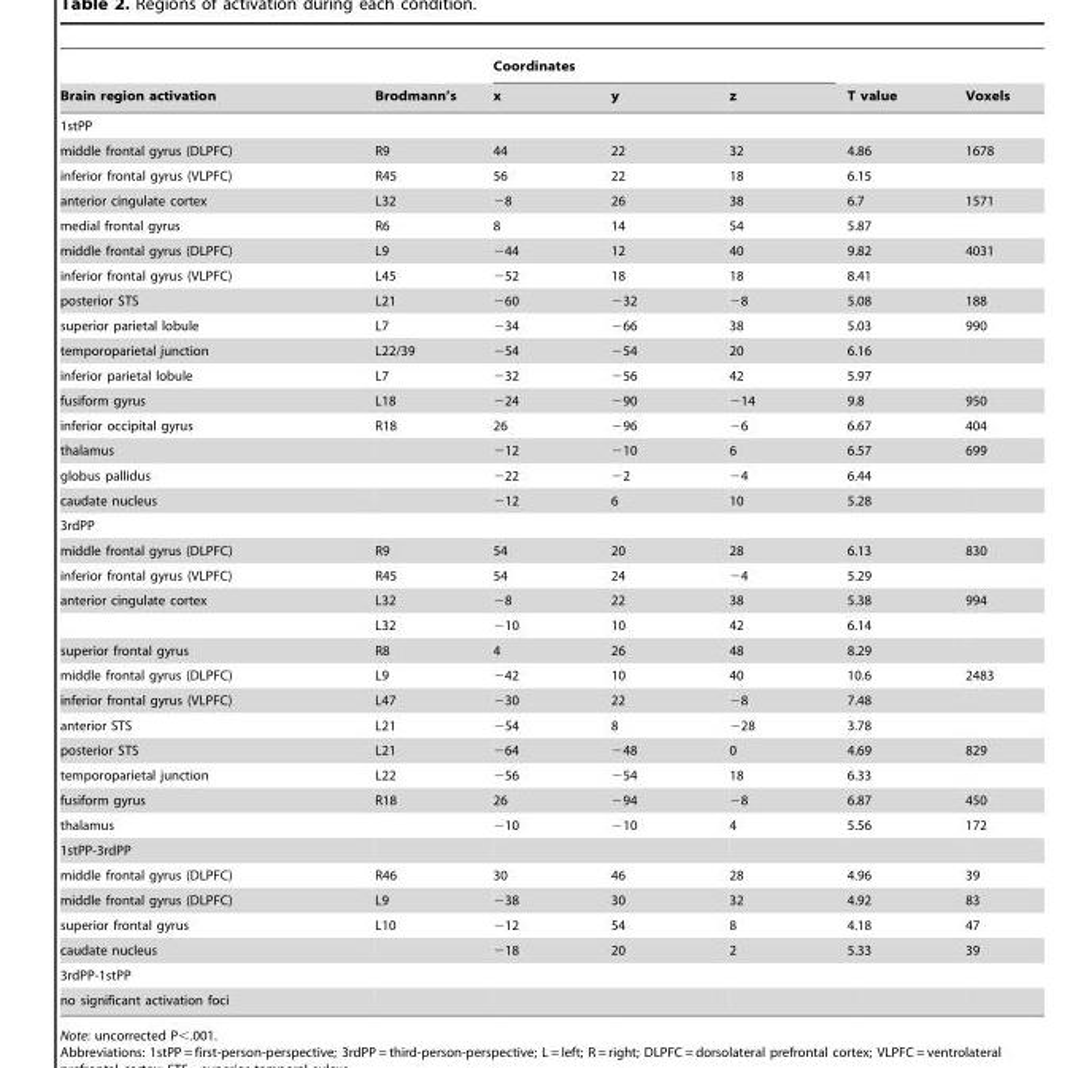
<table><thead><tr><td rowspan="2">Brain region activation</td><td rowspan="2">Brodmann’s</td><td colspan="3">Coordinates</td><td rowspan="2">T value</td><td rowspan="2">Voxels</td></tr><tr><td>x</td><td>y</td><td>z</td></tr></thead><tbody><tr><td colspan="7">1stPP</td></tr><tr><td>middle frontal gyrus (DLPFC)</td><td>R9</td><td>44</td><td>22</td><td>32</td><td>4.86</td><td>1678</td></tr><tr><td>inferior frontal gyrus (VLPFC)</td><td>R45</td><td>56</td><td>22</td><td>18</td><td>6.15</td><td></td></tr><tr><td>anterior cingulate cortex</td><td>L32</td><td>−8</td><td>26</td><td>38</td><td>6.7</td><td>1571</td></tr><tr><td>medial frontal gyrus</td><td>R6</td><td>8</td><td>14</td><td>54</td><td>5.87</td><td></td></tr><tr><td>middle frontal gyrus (DLPFC)</td><td>L9</td><td>−44</td><td>12</td><td>40</td><td>9.82</td><td>4031</td></tr><tr><td>inferior frontal gyrus (VLPFC)</td><td>L45</td><td>−52</td><td>18</td><td>18</td><td>8.41</td><td></td></tr><tr><td>posterior STS</td><td>L21</td><td>−60</td><td>−32</td><td>−8</td><td>5.08</td><td>188</td></tr><tr><td>superior parietal lobule</td><td>L7</td><td>−34</td><td>−66</td><td>38</td><td>5.03</td><td>990</td></tr><tr><td>temporoparietal junction</td><td>L22/39</td><td>−54</td><td>−54</td><td>20</td><td>6.16</td><td></td></tr><tr><td>inferior parietal lobule</td><td>L7</td><td>−32</td><td>−56</td><td>42</td><td>5.97</td><td></td></tr><tr><td>fusiform gyrus</td><td>L18</td><td>−24</td><td>−90</td><td>−14</td><td>9.8</td><td>950</td></tr><tr><td>inferior occipital gyrus</td><td>R18</td><td>26</td><td>−96</td><td>−6</td><td>6.67</td><td>404</td></tr><tr><td>thalamus</td><td></td><td>−12</td><td>−10</td><td>6</td><td>6.57</td><td>699</td></tr><tr><td>globus pallidus</td><td></td><td>−22</td><td>−2</td><td>−4</td><td>6.44</td><td></td></tr><tr><td>caudate nucleus</td><td></td><td>−12</td><td>6</td><td>10</td><td>5.28</td><td></td></tr><tr><td colspan="7">3rdPP</td></tr><tr><td>middle frontal gyrus (DLPFC)</td><td>R9</td><td>54</td><td>20</td><td>28</td><td>6.13</td><td>830</td></tr><tr><td>inferior frontal gyrus (VLPFC)</td><td>R45</td><td>54</td><td>24</td><td>−4</td><td>5.29</td><td></td></tr><tr><td rowspan="2">anterior cingulate cortex</td><td>L32</td><td>−8</td><td>22</td><td>38</td><td>5.38</td><td>994</td></tr><tr><td>L32</td><td>−10</td><td>10</td><td>42</td><td>6.14</td><td></td></tr><tr><td>superior frontal gyrus</td><td>R8</td><td>4</td><td>26</td><td>48</td><td>8.29</td><td></td></tr><tr><td>middle frontal gyrus (DLPFC)</td><td>L9</td><td>−42</td><td>10</td><td>40</td><td>10.6</td><td>2483</td></tr><tr><td>inferior frontal gyrus (VLPFC)</td><td>L47</td><td>−30</td><td>22</td><td>−8</td><td>7.48</td><td></td></tr><tr><td>anterior STS</td><td>L21</td><td>−54</td><td>8</td><td>−28</td><td>3.78</td><td></td></tr><tr><td>posterior STS</td><td>L21</td><td>−64</td><td>−48</td><td>0</td><td>4.69</td><td>829</td></tr><tr><td>temporoparietal junction</td><td>L22</td><td>−56</td><td>−54</td><td>18</td><td>6.33</td><td></td></tr><tr><td>fusiform gyrus</td><td>R18</td><td>26</td><td>−94</td><td>−8</td><td>6.87</td><td>450</td></tr><tr><td>thalamus</td><td></td><td>−10</td><td>−10</td><td>4</td><td>5.56</td><td>172</td></tr><tr><td colspan="7">1stPP-3rdPP</td></tr><tr><td>middle frontal gyrus (DLPFC)</td><td>R46</td><td>30</td><td>46</td><td>28</td><td>4.96</td><td>39</td></tr><tr><td>middle frontal gyrus (DLPFC)</td><td>L9</td><td>−38</td><td>30</td><td>32</td><td>4.92</td><td>83</td></tr><tr><td>superior frontal gyrus</td><td>L10</td><td>−12</td><td>54</td><td>8</td><td>4.18</td><td>47</td></tr><tr><td>caudate nucleus</td><td></td><td>−18</td><td>20</td><td>2</td><td>5.33</td><td>39</td></tr><tr><td colspan="7">3rdPP-1stPP</td></tr><tr><td>no significant activation foci</td><td></td><td></td><td></td><td></td><td></td><td></td></tr></tbody></table>